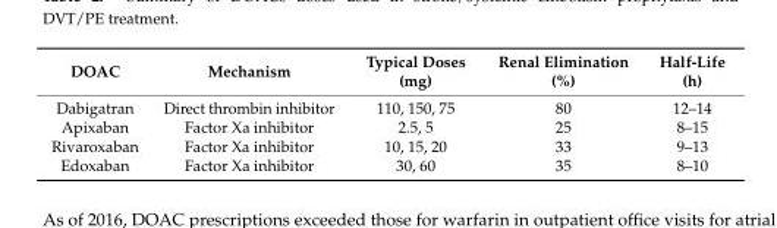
<table><thead><tr><td>DOAC</td><td>Mechanism</td><td>Typical Doses (mg)</td><td>Renal Elimination (%)</td><td>Half-Life (h)</td></tr></thead><tbody><tr><td>Dabigatran</td><td>Direct thrombin inhibitor</td><td>110, 150, 75</td><td>80</td><td>12–14</td></tr><tr><td>Apixaban</td><td>Factor Xa inhibitor</td><td>2.5, 5</td><td>25</td><td>8–15</td></tr><tr><td>Rivaroxaban</td><td>Factor Xa inhibitor</td><td>10, 15, 20</td><td>33</td><td>9–13</td></tr><tr><td>Edoxaban</td><td>Factor Xa inhibitor</td><td>30, 60</td><td>35</td><td>8–10</td></tr></tbody></table>